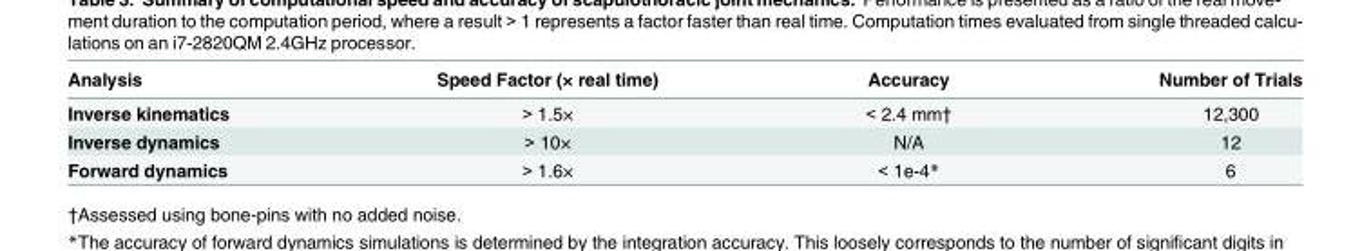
<table><thead><tr><td>Analysis</td><td>Speed Factor (× real time)</td><td>Accuracy</td><td>Number of Trials</td></tr></thead><tbody><tr><td>Inverse kinematics</td><td>&gt; 1.5×</td><td>&lt; 2.4 mm†</td><td>12,300</td></tr><tr><td>Inverse dynamics</td><td>&gt; 10×</td><td>N/A</td><td>12</td></tr><tr><td>Forward dynamics</td><td>&gt; 1.6×</td><td>&lt; 1e-4*</td><td>6</td></tr></tbody></table>